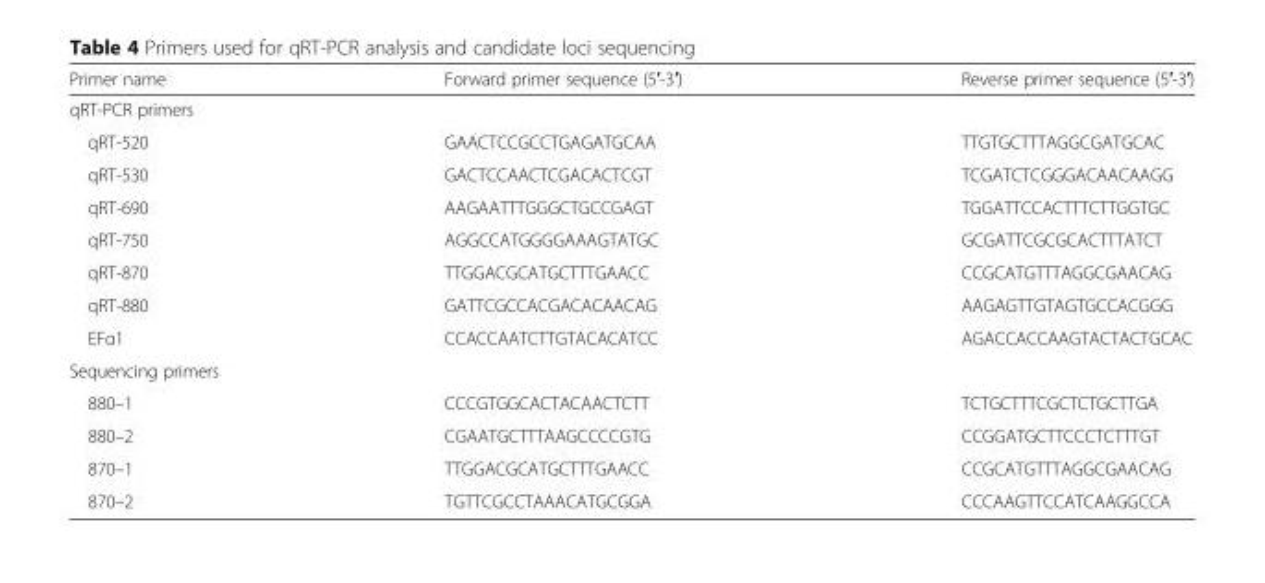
<table><thead><tr><td>Primer name</td><td>Forward primer sequence (5′-3′)</td><td>Reverse primer sequence (5′-3′)</td></tr></thead><tbody><tr><td colspan="3">qRT-PCR primers</td></tr><tr><td>qRT-520</td><td>GAACTCCGCCTGAGATGCAA</td><td>TTGTGCTTTAGGCGATGCAC</td></tr><tr><td>qRT-530</td><td>GACTCCAACTCGACACTCGT</td><td>TCGATCTCGGGACAACAAGG</td></tr><tr><td>qRT-690</td><td>AAGAATTTGGGCTGCCGAGT</td><td>TGGATTCCACTTTCTTGGTGC</td></tr><tr><td>qRT-750</td><td>AGGCCATGGGGAAAGTATGC</td><td>GCGATTCGCGCACTTTATCT</td></tr><tr><td>qRT-870</td><td>TTGGACGCATGCTTTGAACC</td><td>CCGCATGTTTAGGCGAACAG</td></tr><tr><td>qRT-880</td><td>GATTCGCCACGACACAACAG</td><td>AAGAGTTGTAGTGCCACGGG</td></tr><tr><td>EFα1</td><td>CCACCAATCTTGTACACATCC</td><td>AGACCACCAAGTACTACTGCAC</td></tr><tr><td colspan="3">Sequencing primers</td></tr><tr><td>880–1</td><td>CCCGTGGCACTACAACTCTT</td><td>TCTGCTTTCGCTCTGCTTGA</td></tr><tr><td>880–2</td><td>CGAATGCTTTAAGCCCCGTG</td><td>CCGGATGCTTCCCTCTTTGT</td></tr><tr><td>870–1</td><td>TTGGACGCATGCTTTGAACC</td><td>CCGCATGTTTAGGCGAACAG</td></tr><tr><td>870–2</td><td>TGTTCGCCTAAACATGCGGA</td><td>CCCAAGTTCCATCAAGGCCA</td></tr></tbody></table>